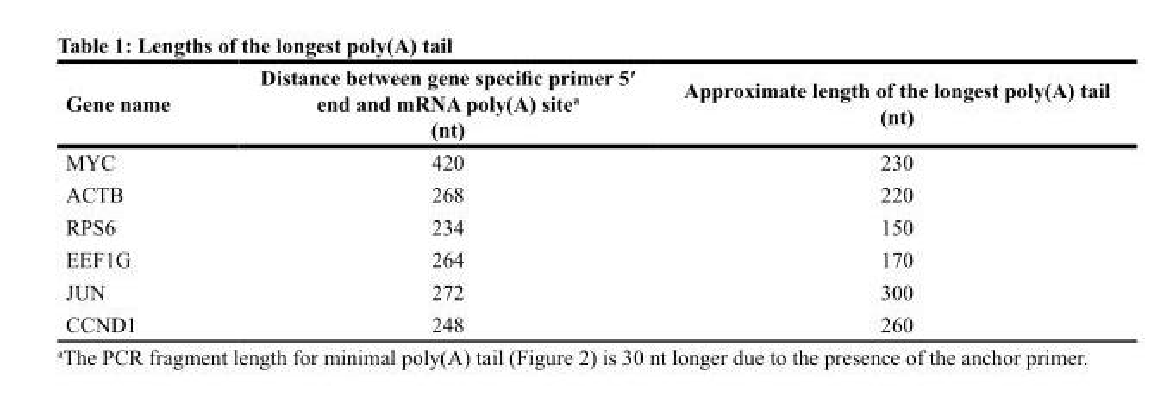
<table><thead><tr><td>Gene name</td><td>Distance between gene specific primer 5ʹ end and mRNA poly(A) sitea (nt)</td><td>Approximate length of the longest poly(A) tail (nt)</td></tr></thead><tbody><tr><td>MYC</td><td>420</td><td>230</td></tr><tr><td>ACTB</td><td>268</td><td>220</td></tr><tr><td>RPS6</td><td>234</td><td>150</td></tr><tr><td>EEF1G</td><td>264</td><td>170</td></tr><tr><td>JUN</td><td>272</td><td>300</td></tr><tr><td>CCND1</td><td>248</td><td>260</td></tr></tbody></table>